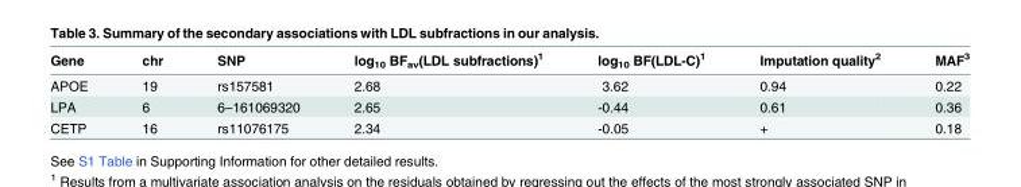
<table><thead><tr><td>Gene</td><td>chr</td><td>SNP</td><td>log<sub>10</sub> BF<sub>av</sub>(LDL subfractions)<sup>1</sup></td><td>log<sub>10</sub> BF(LDL-C)<sup>1</sup></td><td>Imputation quality<sup>2</sup></td><td>MAF<sup>3</sup></td></tr></thead><tbody><tr><td>APOE</td><td>19</td><td>rs157581</td><td>2.68</td><td>3.62</td><td>0.94</td><td>0.22</td></tr><tr><td>LPA</td><td>6</td><td>6–161069320</td><td>2.65</td><td>-0.44</td><td>0.61</td><td>0.36</td></tr><tr><td>CETP</td><td>16</td><td>rs11076175</td><td>2.34</td><td>-0.05</td><td>+</td><td>0.18</td></tr></tbody></table>